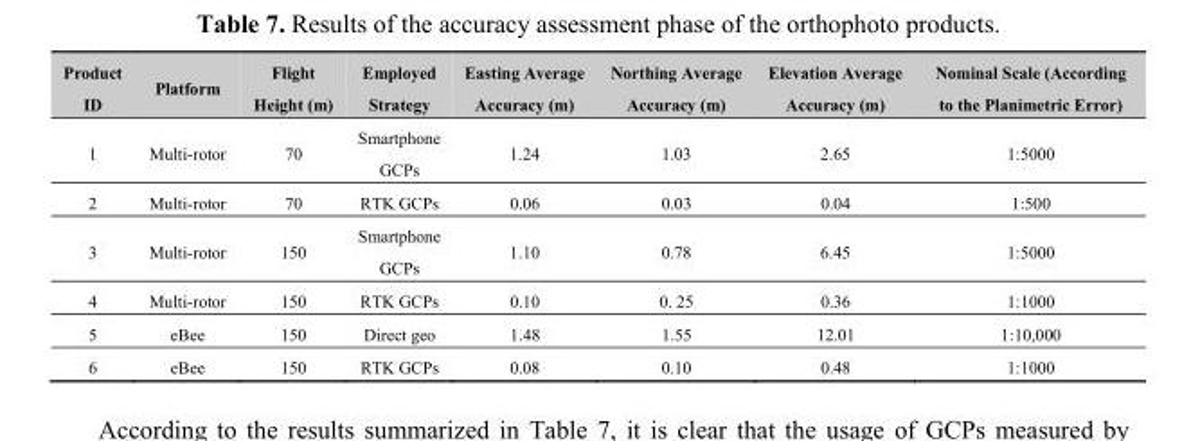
<table><thead><tr><td>Product ID</td><td>Platform</td><td>Flight Height (m)</td><td>Employed Strategy</td><td>Easting Average Accuracy (m)</td><td>Northing Average Accuracy (m)</td><td>Elevation Average Accuracy (m)</td><td>Nominal Scale (According to the Planimetric Error)</td></tr></thead><tbody><tr><td>1</td><td>Multi-rotor</td><td>70</td><td>Smartphone GCPs</td><td>1.24</td><td>1.03</td><td>2.65</td><td>1:5000</td></tr><tr><td>2</td><td>Multi-rotor</td><td>70</td><td>RTK GCPs</td><td>0.06</td><td>0.03</td><td>0.04</td><td>1:500</td></tr><tr><td>3</td><td>Multi-rotor</td><td>150</td><td>Smartphone GCPs</td><td>1.10</td><td>0.78</td><td>6.45</td><td>1:5000</td></tr><tr><td>4</td><td>Multi-rotor</td><td>150</td><td>RTK GCPs</td><td>0.10</td><td>0. 25</td><td>0.36</td><td>1:1000</td></tr><tr><td>5</td><td>eBee</td><td>150</td><td>Direct geo</td><td>1.48</td><td>1.55</td><td>12.01</td><td>1:10,000</td></tr><tr><td>6</td><td>eBee</td><td>150</td><td>RTK GCPs</td><td>0.08</td><td>0.10</td><td>0.48</td><td>1:1000</td></tr></tbody></table>